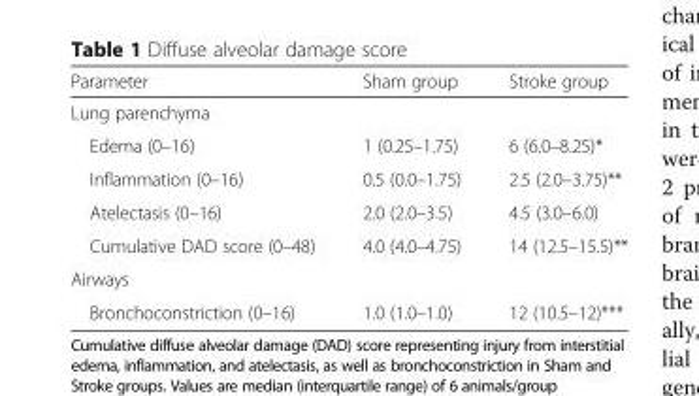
<table><thead><tr><td>Parameter</td><td>Sham group</td><td>Stroke group</td></tr></thead><tbody><tr><td colspan="3">Lung parenchyma</td></tr><tr><td>Edema (0–16)</td><td>1 (0.25–1.75)</td><td>6 (6.0–8.25)*</td></tr><tr><td>Inflammation (0–16)</td><td>0.5 (0.0–1.75)</td><td>2.5 (2.0–3.75)**</td></tr><tr><td>Atelectasis (0–16)</td><td>2.0 (2.0–3.5)</td><td>4.5 (3.0–6.0)</td></tr><tr><td>Cumulative DAD score (0–48)</td><td>4.0 (4.0–4.75)</td><td>14 (12.5–15.5)**</td></tr><tr><td colspan="3">Airways</td></tr><tr><td>Bronchoconstriction (0–16)</td><td>1.0 (1.0–1.0)</td><td>12 (10.5–12)***</td></tr></tbody></table>